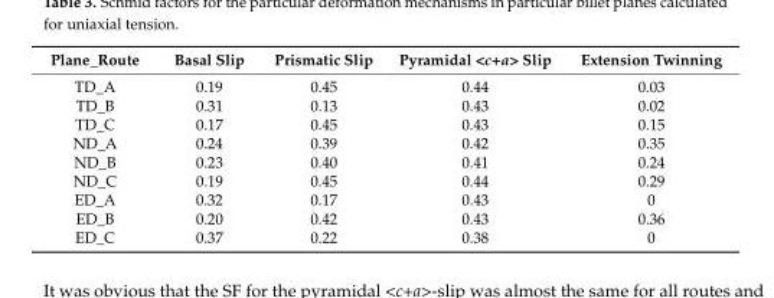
<table><thead><tr><td>Plane_Route</td><td>Basal Slip</td><td>Prismatic Slip</td><td>Pyramidal &lt;c+a&gt; Slip</td><td>Extension Twinning</td></tr></thead><tbody><tr><td>TD_A</td><td>0.19</td><td>0.45</td><td>0.44</td><td>0.03</td></tr><tr><td>TD_B</td><td>0.31</td><td>0.13</td><td>0.43</td><td>0.02</td></tr><tr><td>TD_C</td><td>0.17</td><td>0.45</td><td>0.43</td><td>0.15</td></tr><tr><td>ND_A</td><td>0.24</td><td>0.39</td><td>0.42</td><td>0.35</td></tr><tr><td>ND_B</td><td>0.23</td><td>0.40</td><td>0.41</td><td>0.24</td></tr><tr><td>ND_C</td><td>0.19</td><td>0.45</td><td>0.44</td><td>0.29</td></tr><tr><td>ED_A</td><td>0.32</td><td>0.17</td><td>0.43</td><td>0</td></tr><tr><td>ED_B</td><td>0.20</td><td>0.42</td><td>0.43</td><td>0.36</td></tr><tr><td>ED_C</td><td>0.37</td><td>0.22</td><td>0.38</td><td>0</td></tr></tbody></table>